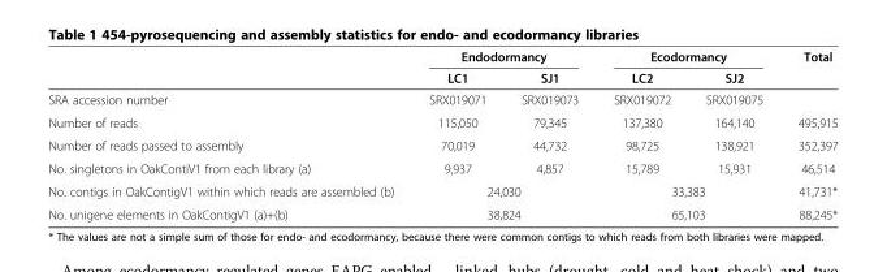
<table><thead><tr><td rowspan="2"></td><td colspan="2">Endodormancy</td><td colspan="2">Ecodormancy</td><td rowspan="2">Total</td></tr><tr><td>LC1</td><td>SJ1</td><td>LC2</td><td>SJ2</td></tr></thead><tbody><tr><td>SRA accession number</td><td>SRX019071</td><td>SRX019073</td><td>SRX019072</td><td>SRX019075</td><td></td></tr><tr><td>Number of reads</td><td>115,050</td><td>79,345</td><td>137,380</td><td>164,140</td><td>495,915</td></tr><tr><td>Number of reads passed to assembly</td><td>70,019</td><td>44,732</td><td>98,725</td><td>138,921</td><td>352,397</td></tr><tr><td>No. singletons in OakContiV1 from each library (a)</td><td>9,937</td><td>4,857</td><td>15,789</td><td>15,931</td><td>46,514</td></tr><tr><td>No. contigs in OakContigV1 within which reads are assembled (b)</td><td colspan="2">24,030</td><td colspan="2">33,383</td><td>41,731*</td></tr><tr><td>No. unigene elements in OakContigV1 (a)+(b)</td><td colspan="2">38,824</td><td colspan="2">65,103</td><td>88,245*</td></tr></tbody></table>